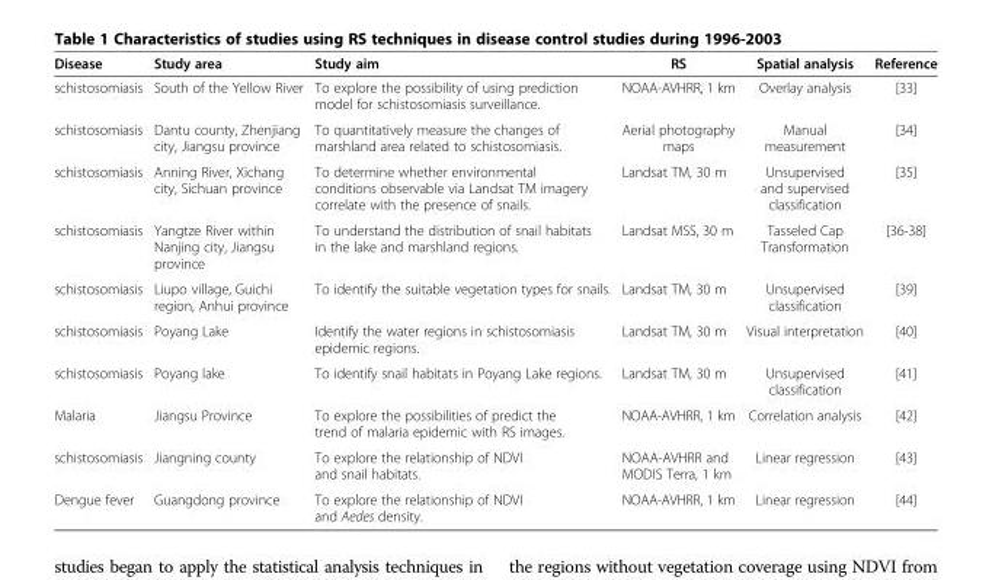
<table><thead><tr><td>Disease</td><td>Study area</td><td>Study aim</td><td>RS</td><td>Spatial analysis</td><td>Reference</td></tr></thead><tbody><tr><td>schistosomiasis</td><td>South of the Yellow River</td><td>To explore the possibility of using prediction model for schistosomiasis surveillance.</td><td>NOAA-AVHRR, 1 km</td><td>Overlay analysis</td><td>[33]</td></tr><tr><td>schistosomiasis</td><td>Dantu county, Zhenjiang city, Jiangsu province</td><td>To quantitatively measure the changes of marshland area related to schistosomiasis.</td><td>Aerial photography maps</td><td>Manual measurement</td><td>[34]</td></tr><tr><td>schistosomiasis</td><td>Anning River, Xichang city, Sichuan province</td><td>To determine whether environmental conditions observable via Landsat TM imagery correlate with the presence of snails.</td><td>Landsat TM, 30 m</td><td>Unsupervised and supervised classification</td><td>[35]</td></tr><tr><td>schistosomiasis</td><td>Yangtze River within Nanjing city, Jiangsu province</td><td>To understand the distribution of snail habitats in the lake and marshland regions.</td><td>Landsat MSS, 30 m</td><td>Tasseled Cap Transformation</td><td>[36-38]</td></tr><tr><td>schistosomiasis</td><td>Liupo village, Guichi region, Anhui province</td><td>To identify the suitable vegetation types for snails.</td><td>Landsat TM, 30 m</td><td>Unsupervised classification</td><td>[39]</td></tr><tr><td>schistosomiasis</td><td>Poyang Lake</td><td>Identify the water regions in schistosomiasis epidemic regions.</td><td>Landsat TM, 30 m</td><td>Visual interpretation</td><td>[40]</td></tr><tr><td>schistosomiasis</td><td>Poyang lake</td><td>To identify snail habitats in Poyang Lake regions.</td><td>Landsat TM, 30 m</td><td>Unsupervised classification</td><td>[41]</td></tr><tr><td>Malaria</td><td>Jiangsu Province</td><td>To explore the possibilities of predict the trend of malaria epidemic with RS images.</td><td>NOAA-AVHRR, 1 km</td><td>Correlation analysis</td><td>[42]</td></tr><tr><td>schistosomiasis</td><td>Jiangning county</td><td>To explore the relationship of NDVI and snail habitats.</td><td>NOAA-AVHRR and MODIS Terra, 1 km</td><td>Linear regression</td><td>[43]</td></tr><tr><td>Dengue fever</td><td>Guangdong province</td><td>To explore the relationship of NDVI and Aedes density.</td><td>NOAA-AVHRR, 1 km</td><td>Linear regression</td><td>[44]</td></tr></tbody></table>